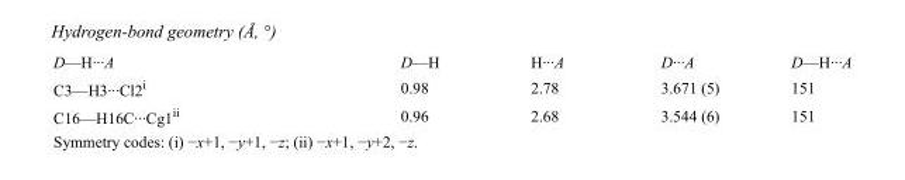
<table><tbody><tr><td>D—H···A</td><td>D—H</td><td>H···A</td><td>D···A</td><td>D—H···A</td></tr><tr><td>C3—H3···Cl2<sup>i</sup></td><td>0.98</td><td>2.78</td><td>3.671 (5)</td><td>151</td></tr><tr><td>C16—H16C···Cg1<sup>ii</sup></td><td>0.96</td><td>2.68</td><td>3.544 (6)</td><td>151</td></tr></tbody></table>